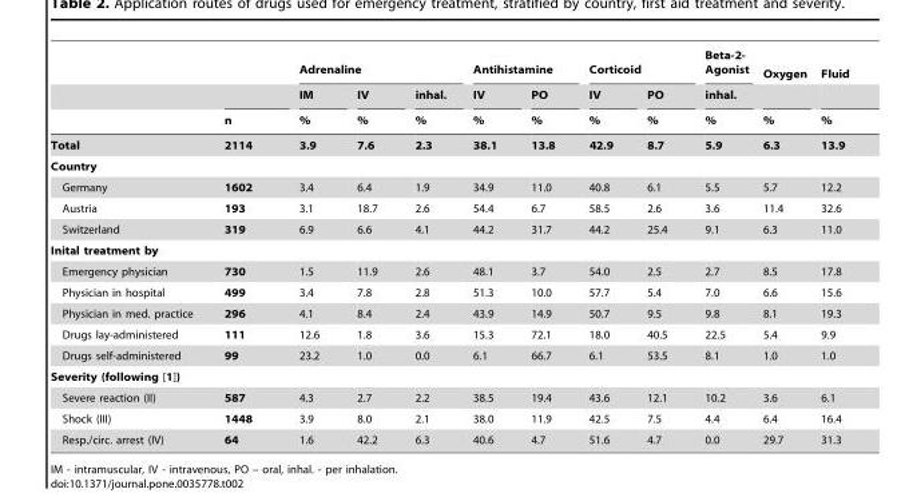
<table><thead><tr><td rowspan="3"></td><td rowspan="3">n</td><td colspan="3">Adrenaline</td><td colspan="2">Antihistamine</td><td colspan="2">Corticoid</td><td rowspan="3">Beta-2- Agonist inhal. %</td><td rowspan="3">Oxygen %</td><td rowspan="3">Fluid %</td></tr><tr><td rowspan="2">IM %</td><td rowspan="2">IV %</td><td rowspan="2">inhal. %</td><td rowspan="2">IV %</td><td rowspan="2">PO %</td><td rowspan="2">IV %</td><td rowspan="2">PO %</td></tr><tr></tr></thead><tbody><tr><td>Total</td><td>2114</td><td>3.9</td><td>7.6</td><td>2.3</td><td>38.1</td><td>13.8</td><td>42.9</td><td>8.7</td><td>5.9</td><td>6.3</td><td>13.9</td></tr><tr><td colspan="12">Country</td></tr><tr><td>Germany</td><td>1602</td><td>3.4</td><td>6.4</td><td>1.9</td><td>34.9</td><td>11.0</td><td>40.8</td><td>6.1</td><td>5.5</td><td>5.7</td><td>12.2</td></tr><tr><td>Austria</td><td>193</td><td>3.1</td><td>18.7</td><td>2.6</td><td>54.4</td><td>6.7</td><td>58.5</td><td>2.6</td><td>3.6</td><td>11.4</td><td>32.6</td></tr><tr><td>Switzerland</td><td>319</td><td>6.9</td><td>6.6</td><td>4.1</td><td>44.2</td><td>31.7</td><td>44.2</td><td>25.4</td><td>9.1</td><td>6.3</td><td>11.0</td></tr><tr><td colspan="12">Inital treatment by</td></tr><tr><td>Emergency physician</td><td>730</td><td>1.5</td><td>11.9</td><td>2.6</td><td>48.1</td><td>3.7</td><td>54.0</td><td>2.5</td><td>2.7</td><td>8.5</td><td>17.8</td></tr><tr><td>Physician in hospital</td><td>499</td><td>3.4</td><td>7.8</td><td>2.8</td><td>51.3</td><td>10.0</td><td>57.7</td><td>5.4</td><td>7.0</td><td>6.6</td><td>15.6</td></tr><tr><td>Physician in med. practice</td><td>296</td><td>4.1</td><td>8.4</td><td>2.4</td><td>43.9</td><td>14.9</td><td>50.7</td><td>9.5</td><td>9.8</td><td>8.1</td><td>19.3</td></tr><tr><td>Drugs lay-administered</td><td>111</td><td>12.6</td><td>1.8</td><td>3.6</td><td>15.3</td><td>72.1</td><td>18.0</td><td>40.5</td><td>22.5</td><td>5.4</td><td>9.9</td></tr><tr><td>Drugs self-administered</td><td>99</td><td>23.2</td><td>1.0</td><td>0.0</td><td>6.1</td><td>66.7</td><td>6.1</td><td>53.5</td><td>8.1</td><td>1.0</td><td>1.0</td></tr><tr><td colspan="12">Severity (following [1])</td></tr><tr><td>Severe reaction (II)</td><td>587</td><td>4.3</td><td>2.7</td><td>2.2</td><td>38.5</td><td>19.4</td><td>43.6</td><td>12.1</td><td>10.2</td><td>3.6</td><td>6.1</td></tr><tr><td>Shock (III)</td><td>1448</td><td>3.9</td><td>8.0</td><td>2.1</td><td>38.0</td><td>11.9</td><td>42.5</td><td>7.5</td><td>4.4</td><td>6.4</td><td>16.4</td></tr><tr><td>Resp./circ. arrest (IV)</td><td>64</td><td>1.6</td><td>42.2</td><td>6.3</td><td>40.6</td><td>4.7</td><td>51.6</td><td>4.7</td><td>0.0</td><td>29.7</td><td>31.3</td></tr></tbody></table>